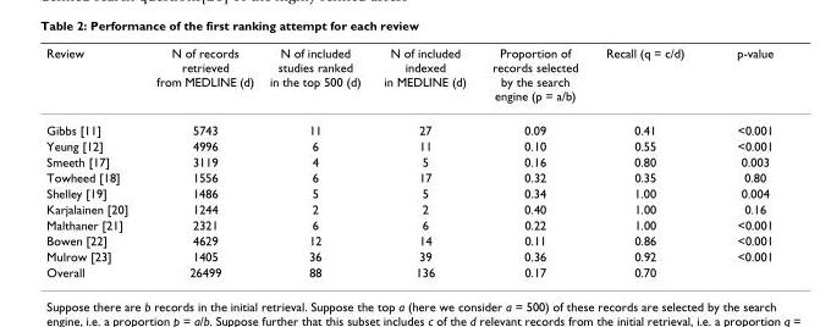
<table><thead><tr><td>Review</td><td>N of records retrieved from MEDLINE (d)</td><td>N of included studies ranked in the top 500 (d)</td><td>N of included indexed in MEDLINE (d)</td><td>Proportion of records selected by the search engine (p = a/b)</td><td>Recall (q = c/d)</td><td>p-value</td></tr></thead><tbody><tr><td>Gibbs [11]</td><td>5743</td><td>11</td><td>27</td><td>0.09</td><td>0.41</td><td>&lt;0.001</td></tr><tr><td>Yeung [12]</td><td>4996</td><td>6</td><td>11</td><td>0.10</td><td>0.55</td><td>&lt;0.001</td></tr><tr><td>Smeeth [17]</td><td>3119</td><td>4</td><td>5</td><td>0.16</td><td>0.80</td><td>0.003</td></tr><tr><td>Towheed [18]</td><td>1556</td><td>6</td><td>17</td><td>0.32</td><td>0.35</td><td>0.80</td></tr><tr><td>Shelley [19]</td><td>1486</td><td>5</td><td>5</td><td>0.34</td><td>1.00</td><td>0.004</td></tr><tr><td>Karjalainen [20]</td><td>1244</td><td>2</td><td>2</td><td>0.40</td><td>1.00</td><td>0.16</td></tr><tr><td>Malthaner [21]</td><td>2321</td><td>6</td><td>6</td><td>0.22</td><td>1.00</td><td>&lt;0.001</td></tr><tr><td>Bowen [22]</td><td>4629</td><td>12</td><td>14</td><td>0.11</td><td>0.86</td><td>&lt;0.001</td></tr><tr><td>Mulrow [23]</td><td>1405</td><td>36</td><td>39</td><td>0.36</td><td>0.92</td><td>&lt;0.001</td></tr><tr><td>Overall</td><td>26499</td><td>88</td><td>136</td><td>0.17</td><td>0.70</td><td></td></tr></tbody></table>